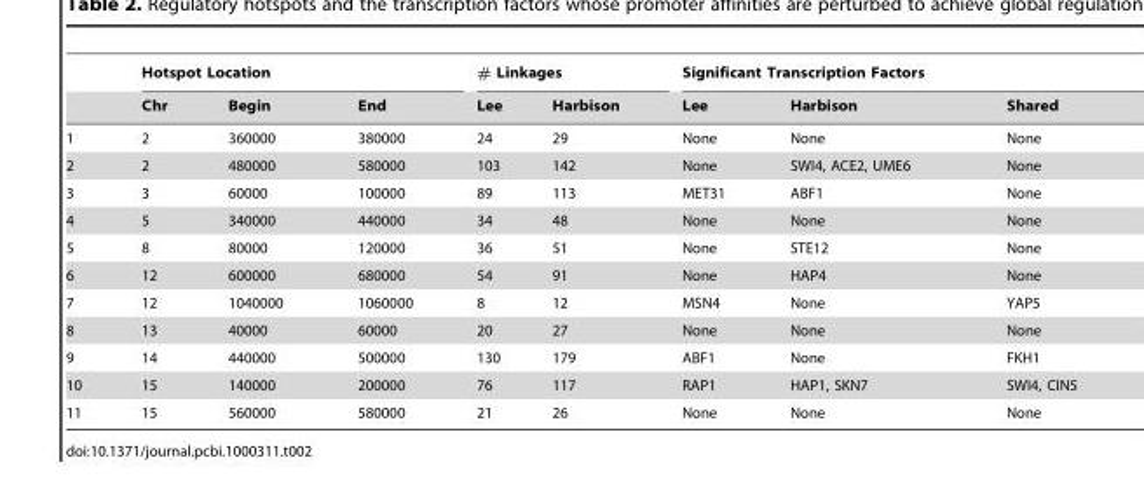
<table><thead><tr><td rowspan="2"></td><td colspan="3">Hotspot Location</td><td colspan="2"># Linkages</td><td colspan="3">Significant Transcription Factors</td></tr><tr><td>Chr</td><td>Begin</td><td>End</td><td>Lee</td><td>Harbison</td><td>Lee</td><td>Harbison</td><td>Shared</td></tr></thead><tbody><tr><td>1</td><td>2</td><td>360000</td><td>380000</td><td>24</td><td>29</td><td>None</td><td>None</td><td>None</td></tr><tr><td>2</td><td>2</td><td>480000</td><td>580000</td><td>103</td><td>142</td><td>None</td><td>SWI4, ACE2, UME6</td><td>None</td></tr><tr><td>3</td><td>3</td><td>60000</td><td>100000</td><td>89</td><td>113</td><td>MET31</td><td>ABF1</td><td>None</td></tr><tr><td>4</td><td>5</td><td>340000</td><td>440000</td><td>34</td><td>48</td><td>None</td><td>None</td><td>None</td></tr><tr><td>5</td><td>8</td><td>80000</td><td>120000</td><td>36</td><td>51</td><td>None</td><td>STE12</td><td>None</td></tr><tr><td>6</td><td>12</td><td>600000</td><td>680000</td><td>54</td><td>91</td><td>None</td><td>HAP4</td><td>None</td></tr><tr><td>7</td><td>12</td><td>1040000</td><td>1060000</td><td>8</td><td>12</td><td>MSN4</td><td>None</td><td>YAP5</td></tr><tr><td>8</td><td>13</td><td>40000</td><td>60000</td><td>20</td><td>27</td><td>None</td><td>None</td><td>None</td></tr><tr><td>9</td><td>14</td><td>440000</td><td>500000</td><td>130</td><td>179</td><td>ABF1</td><td>None</td><td>FKH1</td></tr><tr><td>10</td><td>15</td><td>140000</td><td>200000</td><td>76</td><td>117</td><td>RAP1</td><td>HAP1, SKN7</td><td>SWI4, CIN5</td></tr><tr><td>11</td><td>15</td><td>560000</td><td>580000</td><td>21</td><td>26</td><td>None</td><td>None</td><td>None</td></tr></tbody></table>